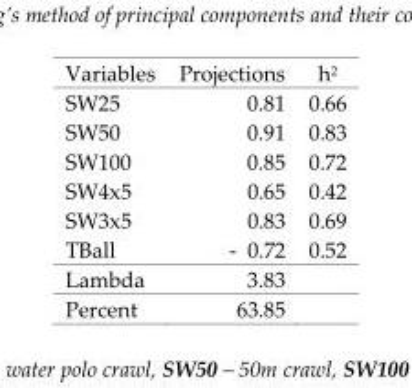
<table><thead><tr><td>Variables</td><td>Projections</td><td>h<sup>2</sup></td></tr></thead><tbody><tr><td>SW25</td><td>0.81</td><td>0.66</td></tr><tr><td>SW50</td><td>0.91</td><td>0.83</td></tr><tr><td>SW100</td><td>0.85</td><td>0.72</td></tr><tr><td>SW4x5</td><td>0.65</td><td>0.42</td></tr><tr><td>SW3x5</td><td>0.83</td><td>0.69</td></tr><tr><td>TBall</td><td>- 0.72</td><td>0.52</td></tr><tr><td>Lambda</td><td>3.83</td><td></td></tr><tr><td>Percent</td><td>63.85</td><td></td></tr></tbody></table>